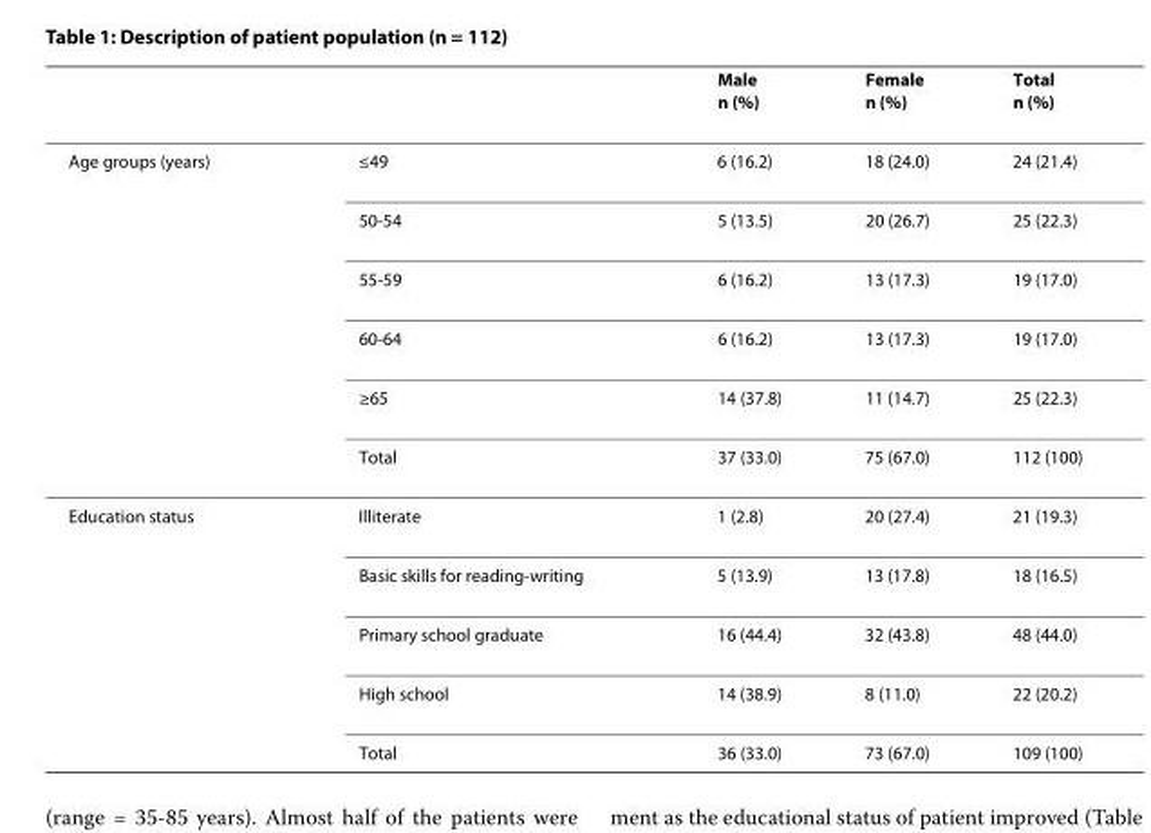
<table><thead><tr><td></td><td></td><td>Male n (%)</td><td>Female n (%)</td><td>Total n (%)</td></tr></thead><tbody><tr><td rowspan="6">Age groups (years)</td><td>≤49</td><td>6 (16.2)</td><td>18 (24.0)</td><td>24 (21.4)</td></tr><tr><td>50-54</td><td>5 (13.5)</td><td>20 (26.7)</td><td>25 (22.3)</td></tr><tr><td>55-59</td><td>6 (16.2)</td><td>13 (17.3)</td><td>19 (17.0)</td></tr><tr><td>60-64</td><td>6 (16.2)</td><td>13 (17.3)</td><td>19 (17.0)</td></tr><tr><td>≥65</td><td>14 (37.8)</td><td>11 (14.7)</td><td>25 (22.3)</td></tr><tr><td>Total</td><td>37 (33.0)</td><td>75 (67.0)</td><td>112 (100)</td></tr><tr><td rowspan="5">Education status</td><td>Illiterate</td><td>1 (2.8)</td><td>20 (27.4)</td><td>21 (19.3)</td></tr><tr><td>Basic skills for reading-writing</td><td>5 (13.9)</td><td>13 (17.8)</td><td>18 (16.5)</td></tr><tr><td>Primary school graduate</td><td>16 (44.4)</td><td>32 (43.8)</td><td>48 (44.0)</td></tr><tr><td>High school</td><td>14 (38.9)</td><td>8 (11.0)</td><td>22 (20.2)</td></tr><tr><td>Total</td><td>36 (33.0)</td><td>73 (67.0)</td><td>109 (100)</td></tr></tbody></table>